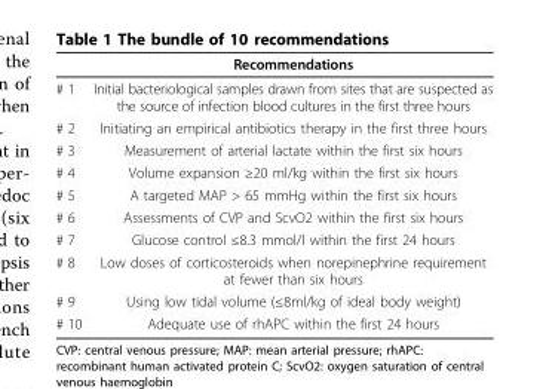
<table><thead><tr><td></td><td>Recommendations</td></tr></thead><tbody><tr><td># 1</td><td>Initial bacteriological samples drawn from sites that are suspected as the source of infection blood cultures in the first three hours</td></tr><tr><td># 2</td><td>Initiating an empirical antibiotics therapy in the first three hours</td></tr><tr><td># 3</td><td>Measurement of arterial lactate within the first six hours</td></tr><tr><td># 4</td><td>Volume expansion ≥20 ml/kg within the first six hours</td></tr><tr><td># 5</td><td>A targeted MAP &gt; 65 mmHg within the first six hours</td></tr><tr><td># 6</td><td>Assessments of CVP and ScvO2 within the first six hours</td></tr><tr><td># 7</td><td>Glucose control ≤8.3 mmol/l within the first 24 hours</td></tr><tr><td># 8</td><td>Low doses of corticosteroids when norepinephrine requirement at fewer than six hours</td></tr><tr><td># 9</td><td>Using low tidal volume (≤8ml/kg of ideal body weight)</td></tr><tr><td># 10</td><td>Adequate use of rhAPC within the first 24 hours</td></tr></tbody></table>